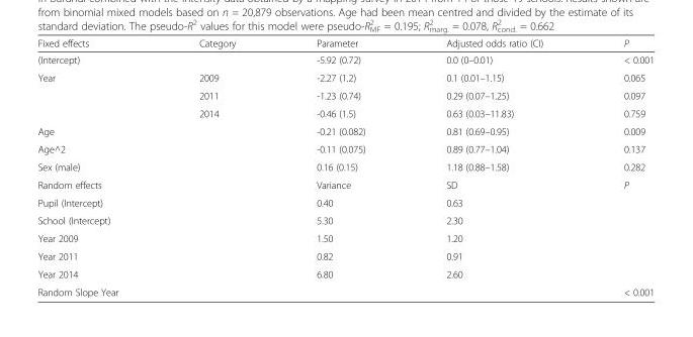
<table><thead><tr><td>Fixed effects</td><td>Category</td><td>Parameter</td><td>Adjusted odds ratio (CI)</td><td>P</td></tr></thead><tbody><tr><td>(Intercept)</td><td></td><td>-5.92 (0.72)</td><td>0.0 (0–0.01)</td><td>&lt; 0.001</td></tr><tr><td rowspan="3">Year</td><td>2009</td><td>-2.27 (1.2)</td><td>0.1 (0.01–1.15)</td><td>0.065</td></tr><tr><td>2011</td><td>-1.23 (0.74)</td><td>0.29 (0.07–1.25)</td><td>0.097</td></tr><tr><td>2014</td><td>-0.46 (1.5)</td><td>0.63 (0.03–11.83)</td><td>0.759</td></tr><tr><td>Age</td><td></td><td>-0.21 (0.082)</td><td>0.81 (0.69–0.95)</td><td>0.009</td></tr><tr><td>Age^2</td><td></td><td>-0.11 (0.075)</td><td>0.89 (0.77–1.04)</td><td>0.137</td></tr><tr><td>Sex (male)</td><td></td><td>0.16 (0.15)</td><td>1.18 (0.88–1.58)</td><td>0.282</td></tr><tr><td>Random effects</td><td></td><td>Variance</td><td>SD</td><td>P</td></tr><tr><td>Pupil (Intercept)</td><td></td><td>0.40</td><td>0.63</td><td></td></tr><tr><td>School (Intercept)</td><td></td><td>5.30</td><td>2.30</td><td></td></tr><tr><td>Year 2009</td><td></td><td>1.50</td><td>1.20</td><td></td></tr><tr><td>Year 2011</td><td></td><td>0.82</td><td>0.91</td><td></td></tr><tr><td>Year 2014</td><td></td><td>6.80</td><td>2.60</td><td></td></tr><tr><td>Random Slope Year</td><td></td><td></td><td></td><td>&lt; 0.001</td></tr></tbody></table>